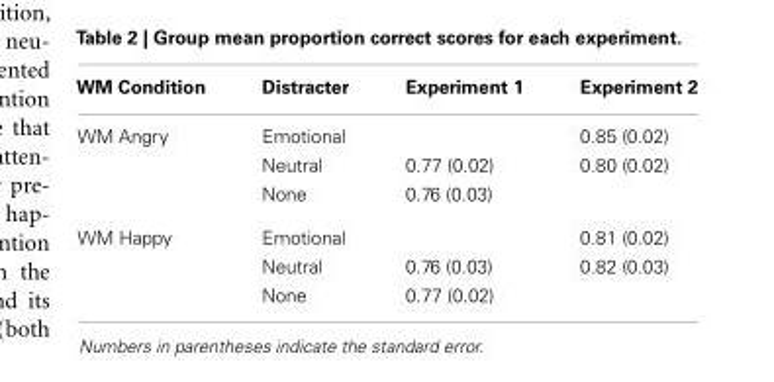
<table><thead><tr><td>WM Condition</td><td>Distracter</td><td>Experiment 1</td><td>Experiment 2</td></tr></thead><tbody><tr><td rowspan="3">WM Angry</td><td>Emotional</td><td></td><td>0.85 (0.02)</td></tr><tr><td>Neutral</td><td>0.77 (0.02)</td><td>0.80 (0.02)</td></tr><tr><td>None</td><td>0.76 (0.03)</td><td></td></tr><tr><td rowspan="3">WM Happy</td><td>Emotional</td><td></td><td>0.81 (0.02)</td></tr><tr><td>Neutral</td><td>0.76 (0.03)</td><td>0.82 (0.03)</td></tr><tr><td>None</td><td>0.77 (0.02)</td><td></td></tr></tbody></table>